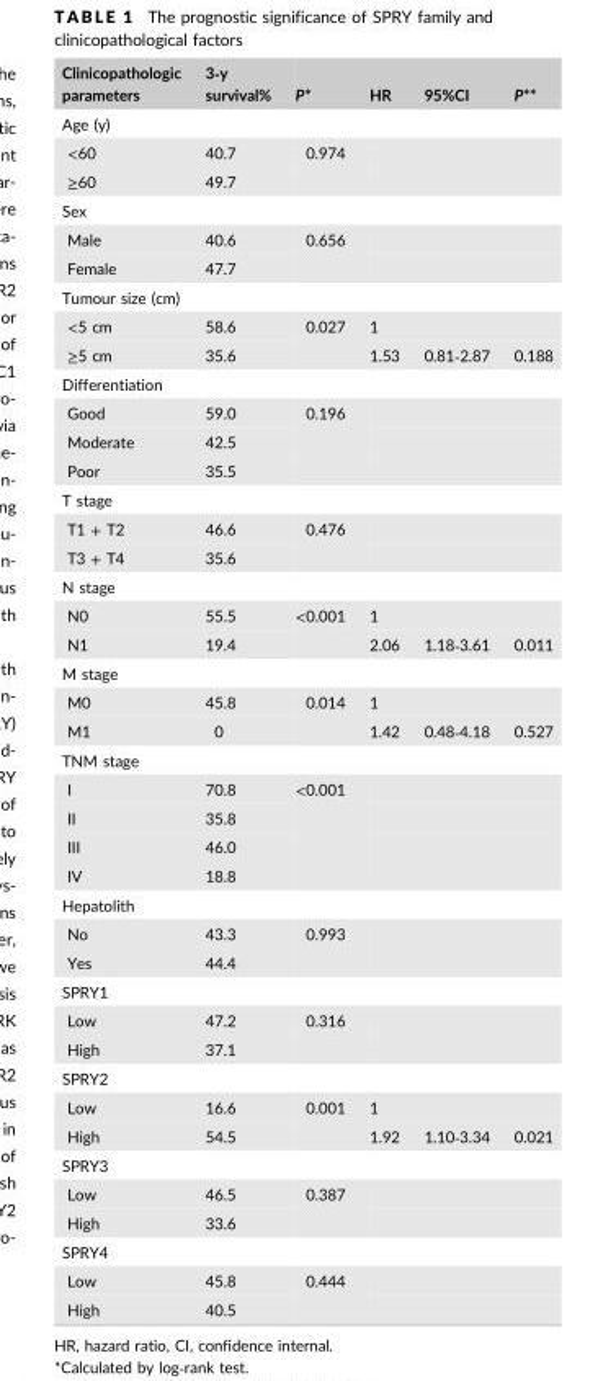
<table><thead><tr><td>Clinicopathologic parameters</td><td>3‐y survival%</td><td>P*</td><td>HR</td><td>95%CI</td><td>P**</td></tr></thead><tbody><tr><td colspan="6">Age (y)</td></tr><tr><td>&lt;60</td><td>40.7</td><td rowspan="2">0.974</td><td></td><td></td><td></td></tr><tr><td>≥60</td><td>49.7</td><td></td><td></td><td></td></tr><tr><td colspan="6">Sex</td></tr><tr><td>Male</td><td>40.6</td><td rowspan="2">0.656</td><td></td><td></td><td></td></tr><tr><td>Female</td><td>47.7</td><td></td><td></td><td></td></tr><tr><td colspan="6">Tumour size (cm)</td></tr><tr><td>&lt;5 cm</td><td>58.6</td><td rowspan="2">0.027</td><td>1</td><td></td><td></td></tr><tr><td>≥5 cm</td><td>35.6</td><td>1.53</td><td>0.81‐2.87</td><td>0.188</td></tr><tr><td colspan="6">Differentiation</td></tr><tr><td>Good</td><td>59.0</td><td rowspan="3">0.196</td><td></td><td></td><td></td></tr><tr><td>Moderate</td><td>42.5</td><td></td><td></td><td></td></tr><tr><td>Poor</td><td>35.5</td><td></td><td></td><td></td></tr><tr><td colspan="6">T stage</td></tr><tr><td>T1 + T2</td><td>46.6</td><td rowspan="2">0.476</td><td></td><td></td><td></td></tr><tr><td>T3 + T4</td><td>35.6</td><td></td><td></td><td></td></tr><tr><td colspan="6">N stage</td></tr><tr><td>N0</td><td>55.5</td><td rowspan="2">&lt;0.001</td><td>1</td><td></td><td></td></tr><tr><td>N1</td><td>19.4</td><td>2.06</td><td>1.18‐3.61</td><td>0.011</td></tr><tr><td colspan="6">M stage</td></tr><tr><td>M0</td><td>45.8</td><td rowspan="2">0.014</td><td>1</td><td></td><td></td></tr><tr><td>M1</td><td>0</td><td>1.42</td><td>0.48‐4.18</td><td>0.527</td></tr><tr><td colspan="6">TNM stage</td></tr><tr><td>I</td><td>70.8</td><td rowspan="4">&lt;0.001</td><td></td><td></td><td></td></tr><tr><td>II</td><td>35.8</td><td></td><td></td><td></td></tr><tr><td>III</td><td>46.0</td><td></td><td></td><td></td></tr><tr><td>IV</td><td>18.8</td><td></td><td></td><td></td></tr><tr><td colspan="6">Hepatolith</td></tr><tr><td>No</td><td>43.3</td><td rowspan="2">0.993</td><td></td><td></td><td></td></tr><tr><td>Yes</td><td>44.4</td><td></td><td></td><td></td></tr><tr><td colspan="6">SPRY1</td></tr><tr><td>Low</td><td>47.2</td><td rowspan="2">0.316</td><td></td><td></td><td></td></tr><tr><td>High</td><td>37.1</td><td></td><td></td><td></td></tr><tr><td colspan="6">SPRY2</td></tr><tr><td>Low</td><td>16.6</td><td rowspan="2">0.001</td><td>1</td><td></td><td></td></tr><tr><td>High</td><td>54.5</td><td>1.92</td><td>1.10‐3.34</td><td>0.021</td></tr><tr><td colspan="6">SPRY3</td></tr><tr><td>Low</td><td>46.5</td><td rowspan="2">0.387</td><td></td><td></td><td></td></tr><tr><td>High</td><td>33.6</td><td></td><td></td><td></td></tr><tr><td colspan="6">SPRY4</td></tr><tr><td>Low</td><td>45.8</td><td rowspan="2">0.444</td><td></td><td></td><td></td></tr><tr><td>High</td><td>40.5</td><td></td><td></td><td></td></tr></tbody></table>